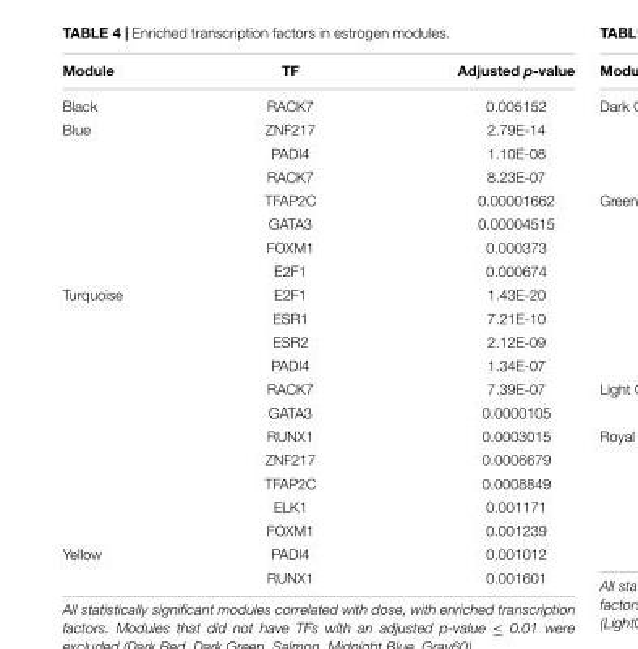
<table><thead><tr><td>Module</td><td>TF</td><td>Adjusted p-value</td></tr></thead><tbody><tr><td>Black</td><td>RACK7</td><td>0.005152</td></tr><tr><td rowspan="7">Blue</td><td>ZNF217</td><td>2.79E-14</td></tr><tr><td>PADI4</td><td>1.10E-08</td></tr><tr><td>RACK7</td><td>8.23E-07</td></tr><tr><td>TFAP2C</td><td>0.00001662</td></tr><tr><td>GATA3</td><td>0.00004515</td></tr><tr><td>FOXM1</td><td>0.000373</td></tr><tr><td>E2F1</td><td>0.000674</td></tr><tr><td rowspan="11">Turquoise</td><td>E2F1</td><td>1.43E-20</td></tr><tr><td>ESR1</td><td>7.21E-10</td></tr><tr><td>ESR2</td><td>2.12E-09</td></tr><tr><td>PADI4</td><td>1.34E-07</td></tr><tr><td>RACK7</td><td>7.39E-07</td></tr><tr><td>GATA3</td><td>0.0000105</td></tr><tr><td>RUNX1</td><td>0.0003015</td></tr><tr><td>ZNF217</td><td>0.0006679</td></tr><tr><td>TFAP2C</td><td>0.0008849</td></tr><tr><td>ELK1</td><td>0.001171</td></tr><tr><td>FOXM1</td><td>0.001239</td></tr><tr><td rowspan="2">Yellow</td><td>PADI4</td><td>0.001012</td></tr><tr><td>RUNX1</td><td>0.001601</td></tr></tbody></table>